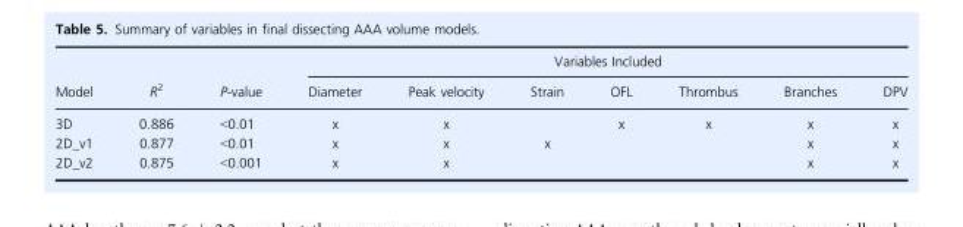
<table><thead><tr><td rowspan="2">Model</td><td rowspan="2">R<sup>2</sup></td><td rowspan="2">P-value</td><td colspan="7">Variables Included</td></tr><tr><td>Diameter</td><td>Peak velocity</td><td>Strain</td><td>OFL</td><td>Thrombus</td><td>Branches</td><td>DPV</td></tr></thead><tbody><tr><td>3D</td><td>0.886</td><td>&lt;0.01</td><td>x</td><td>x</td><td></td><td>x</td><td>x</td><td>x</td><td>x</td></tr><tr><td>2D_v1</td><td>0.877</td><td>&lt;0.01</td><td>x</td><td>x</td><td>x</td><td></td><td></td><td>x</td><td>x</td></tr><tr><td>2D_v2</td><td>0.875</td><td>&lt;0.001</td><td>x</td><td>x</td><td></td><td></td><td></td><td>x</td><td>x</td></tr></tbody></table>